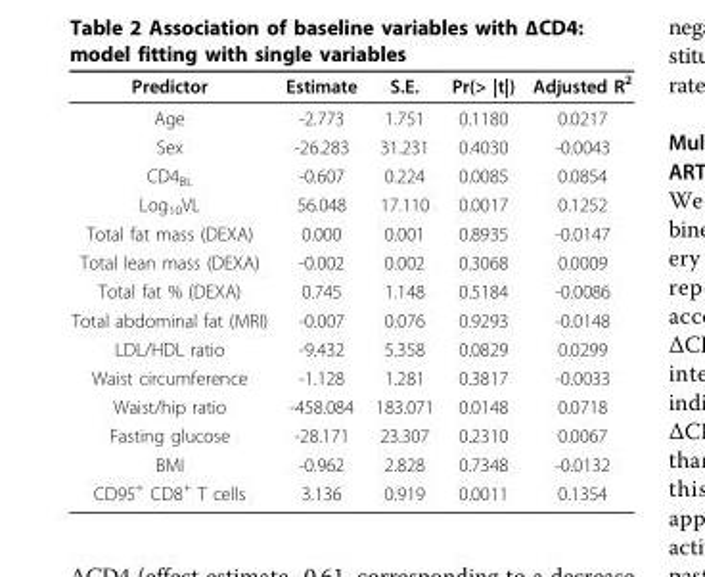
<table><thead><tr><td>Predictor</td><td>Estimate</td><td>S.E.</td><td>Pr(&gt; |t|)</td><td>Adjusted R<sup>2</sup></td></tr></thead><tbody><tr><td>Age</td><td>-2.773</td><td>1.751</td><td>0.1180</td><td>0.0217</td></tr><tr><td>Sex</td><td>-26.283</td><td>31.231</td><td>0.4030</td><td>-0.0043</td></tr><tr><td>CD4<sub>BL</sub></td><td>-0.607</td><td>0.224</td><td>0.0085</td><td>0.0854</td></tr><tr><td>Log<sub>10</sub>VL</td><td>56.048</td><td>17.110</td><td>0.0017</td><td>0.1252</td></tr><tr><td>Total fat mass (DEXA)</td><td>0.000</td><td>0.001</td><td>0.8935</td><td>-0.0147</td></tr><tr><td>Total lean mass (DEXA)</td><td>-0.002</td><td>0.002</td><td>0.3068</td><td>0.0009</td></tr><tr><td>Total fat % (DEXA)</td><td>0.745</td><td>1.148</td><td>0.5184</td><td>-0.0086</td></tr><tr><td>Total abdominal fat (MRI)</td><td>-0.007</td><td>0.076</td><td>0.9293</td><td>-0.0148</td></tr><tr><td>LDL/HDL ratio</td><td>-9.432</td><td>5.358</td><td>0.0829</td><td>0.0299</td></tr><tr><td>Waist circumference</td><td>-1.128</td><td>1.281</td><td>0.3817</td><td>-0.0033</td></tr><tr><td>Waist/hip ratio</td><td>-458.084</td><td>183.071</td><td>0.0148</td><td>0.0718</td></tr><tr><td>Fasting glucose</td><td>-28.171</td><td>23.307</td><td>0.2310</td><td>0.0067</td></tr><tr><td>BMI</td><td>-0.962</td><td>2.828</td><td>0.7348</td><td>-0.0132</td></tr><tr><td>CD95<sup>+</sup> CD8<sup>+</sup> T cells</td><td>3.136</td><td>0.919</td><td>0.0011</td><td>0.1354</td></tr></tbody></table>